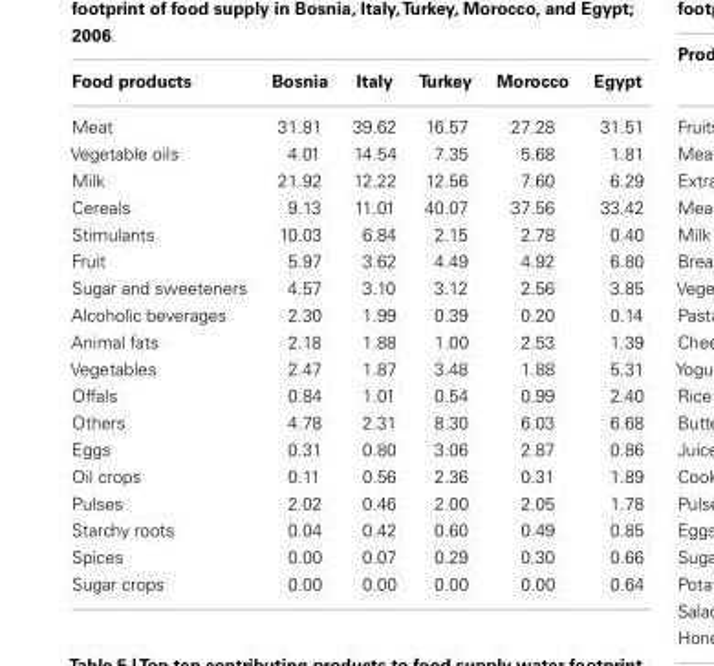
<table><thead><tr><td>Food products</td><td>Bosnia</td><td>Italy</td><td>Turkey</td><td>Morocco</td><td>Egypt</td></tr></thead><tbody><tr><td>Meat</td><td>31.81</td><td>39.62</td><td>16.57</td><td>27.28</td><td>31.51</td></tr><tr><td>Vegetable oils</td><td>4.01</td><td>14.54</td><td>7.35</td><td>5.68</td><td>1.81</td></tr><tr><td>Milk</td><td>21.92</td><td>12.22</td><td>12.56</td><td>7.60</td><td>6.29</td></tr><tr><td>Cereals</td><td>9.13</td><td>11.01</td><td>40.07</td><td>37.56</td><td>33.42</td></tr><tr><td>Stimulants</td><td>10.03</td><td>6.84</td><td>2.15</td><td>2.78</td><td>0.40</td></tr><tr><td>Fruit</td><td>5.97</td><td>3.62</td><td>4.49</td><td>4.92</td><td>6.80</td></tr><tr><td>Sugar and sweeteners</td><td>4.57</td><td>3.10</td><td>3.12</td><td>2.56</td><td>3.85</td></tr><tr><td>Alcoholic beverages</td><td>2.30</td><td>1.99</td><td>0.39</td><td>0.20</td><td>0.14</td></tr><tr><td>Animal fats</td><td>2.18</td><td>1.88</td><td>1.00</td><td>2.53</td><td>1.39</td></tr><tr><td>Vegetables</td><td>2.47</td><td>1.87</td><td>3.48</td><td>1.88</td><td>5.31</td></tr><tr><td>Offals</td><td>0.84</td><td>1.01</td><td>0.54</td><td>0.99</td><td>2.40</td></tr><tr><td>Others</td><td>4.78</td><td>2.31</td><td>8.30</td><td>6.03</td><td>6.68</td></tr><tr><td>Eggs</td><td>0.31</td><td>0.80</td><td>3.06</td><td>2.87</td><td>0.86</td></tr><tr><td>Oil crops</td><td>0.11</td><td>0.56</td><td>2.36</td><td>0.31</td><td>1.89</td></tr><tr><td>Pulses</td><td>2.02</td><td>0.46</td><td>2.00</td><td>2.05</td><td>1.78</td></tr><tr><td>Starchy roots</td><td>0.04</td><td>0.42</td><td>0.60</td><td>0.49</td><td>0.85</td></tr><tr><td>Spices</td><td>0.00</td><td>0.07</td><td>0.29</td><td>0.30</td><td>0.66</td></tr><tr><td>Sugar crops</td><td>0.00</td><td>0.00</td><td>0.00</td><td>0.00</td><td>0.64</td></tr></tbody></table>